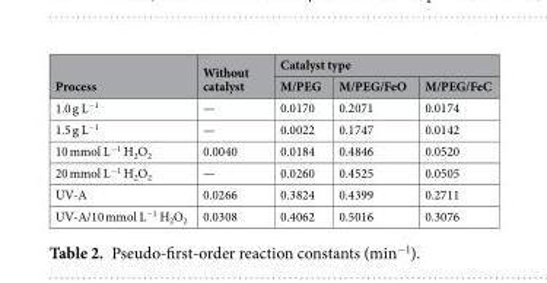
<table><thead><tr><td rowspan="2">Process</td><td rowspan="2">Without catalyst</td><td colspan="3">Catalyst type</td></tr><tr><td>M/PEG</td><td>M/PEG/FeO</td><td>M/PEG/FeC</td></tr></thead><tbody><tr><td>1.0 g L<sup>−1</sup></td><td>—</td><td>0.0170</td><td>0.2071</td><td>0.0174</td></tr><tr><td>1.5 g L<sup>−1</sup></td><td>—</td><td>0.0022</td><td>0.1747</td><td>0.0142</td></tr><tr><td>10 mmol L<sup>−1</sup> H<sub>2</sub>O<sub>2</sub></td><td>0.0040</td><td>0.0184</td><td>0.4846</td><td>0.0520</td></tr><tr><td>20 mmol L<sup>−1</sup> H<sub>2</sub>O<sub>2</sub></td><td>—</td><td>0.0260</td><td>0.4525</td><td>0.0505</td></tr><tr><td>UV-A</td><td>0.0266</td><td>0.3824</td><td>0.4399</td><td>0.2711</td></tr><tr><td>UV-A/10 mmol L<sup>−1</sup> H<sub>2</sub>O<sub>2</sub></td><td>0.0308</td><td>0.4062</td><td>0.5016</td><td>0.3076</td></tr></tbody></table>